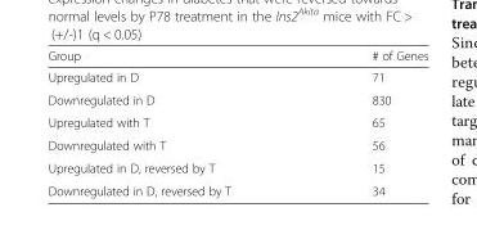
<table><thead><tr><td>Group</td><td># of Genes</td></tr></thead><tbody><tr><td>Upregulated in D</td><td>71</td></tr><tr><td>Downregulated in D</td><td>830</td></tr><tr><td>Upregulated with T</td><td>65</td></tr><tr><td>Downregulated with T</td><td>56</td></tr><tr><td>Upregulated in D, reversed by T</td><td>15</td></tr><tr><td>Downregulated in D, reversed by T</td><td>34</td></tr></tbody></table>